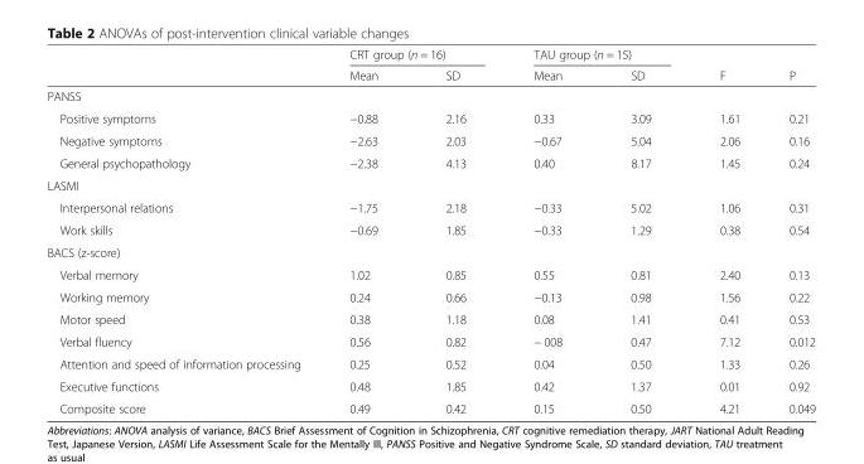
<table><thead><tr><td rowspan="2"></td><td colspan="2">CRT group (n = 16)</td><td colspan="2">TAU group (n = 15)</td><td rowspan="2">F</td><td rowspan="2">P</td></tr><tr><td>Mean</td><td>SD</td><td>Mean</td><td>SD</td></tr></thead><tbody><tr><td colspan="7">PANSS</td></tr><tr><td>Positive symptoms</td><td>−0.88</td><td>2.16</td><td>0.33</td><td>3.09</td><td>1.61</td><td>0.21</td></tr><tr><td>Negative symptoms</td><td>−2.63</td><td>2.03</td><td>−0.67</td><td>5.04</td><td>2.06</td><td>0.16</td></tr><tr><td>General psychopathology</td><td>−2.38</td><td>4.13</td><td>0.40</td><td>8.17</td><td>1.45</td><td>0.24</td></tr><tr><td colspan="7">LASMI</td></tr><tr><td>Interpersonal relations</td><td>−1.75</td><td>2.18</td><td>−0.33</td><td>5.02</td><td>1.06</td><td>0.31</td></tr><tr><td>Work skills</td><td>−0.69</td><td>1.85</td><td>−0.33</td><td>1.29</td><td>0.38</td><td>0.54</td></tr><tr><td colspan="7">BACS (z-score)</td></tr><tr><td>Verbal memory</td><td>1.02</td><td>0.85</td><td>0.55</td><td>0.81</td><td>2.40</td><td>0.13</td></tr><tr><td>Working memory</td><td>0.24</td><td>0.66</td><td>−0.13</td><td>0.98</td><td>1.56</td><td>0.22</td></tr><tr><td>Motor speed</td><td>0.38</td><td>1.18</td><td>0.08</td><td>1.41</td><td>0.41</td><td>0.53</td></tr><tr><td>Verbal fluency</td><td>0.56</td><td>0.82</td><td>− 008</td><td>0.47</td><td>7.12</td><td>0.012</td></tr><tr><td>Attention and speed of information processing</td><td>0.25</td><td>0.52</td><td>0.04</td><td>0.50</td><td>1.33</td><td>0.26</td></tr><tr><td>Executive functions</td><td>0.48</td><td>1.85</td><td>0.42</td><td>1.37</td><td>0.01</td><td>0.92</td></tr><tr><td>Composite score</td><td>0.49</td><td>0.42</td><td>0.15</td><td>0.50</td><td>4.21</td><td>0.049</td></tr></tbody></table>